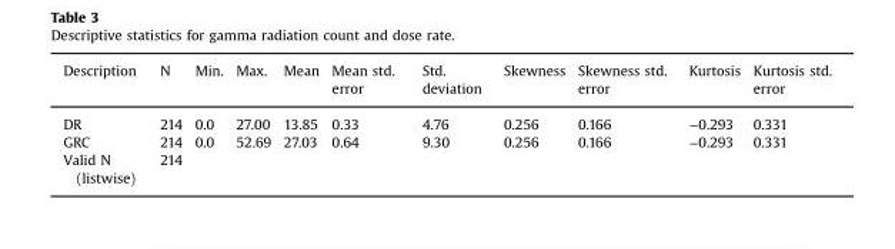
<table><thead><tr><td>Description</td><td>N</td><td>Min.</td><td>Max.</td><td>Mean</td><td>Mean std. error</td><td>Std. deviation</td><td>Skewness</td><td>Skewness std. error</td><td>Kurtosis</td><td>Kurtosis std. error</td></tr></thead><tbody><tr><td>DR</td><td>214</td><td>0.0</td><td>27.00</td><td>13.85</td><td>0.33</td><td>4.76</td><td>0.256</td><td>0.166</td><td>−0.293</td><td>0.331</td></tr><tr><td>GRC</td><td>214</td><td>0.0</td><td>52.69</td><td>27.03</td><td>0.64</td><td>9.30</td><td>0.256</td><td>0.166</td><td>−0.293</td><td>0.331</td></tr><tr><td>Valid N (listwise)</td><td>214</td><td></td><td></td><td></td><td></td><td></td><td></td><td></td><td></td><td></td></tr></tbody></table>